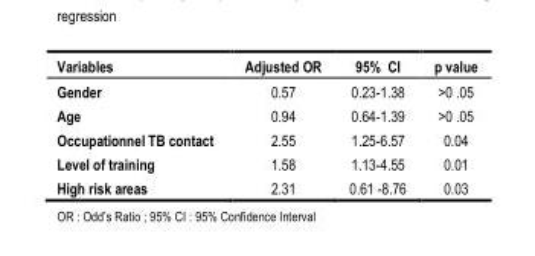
<table><thead><tr><td>Variables</td><td>Adjusted OR</td><td>95% CI</td><td>p value</td></tr></thead><tbody><tr><td>Gender</td><td>0.57</td><td>0.23-1.38</td><td>&gt;0 .05</td></tr><tr><td>Age</td><td>0.94</td><td>0.64-1.39</td><td>&gt;0 .05</td></tr><tr><td>Occupationnel TB contact</td><td>2.55</td><td>1.25-6.57</td><td>0.04</td></tr><tr><td>Level of training</td><td>1.58</td><td>1.13-4.55</td><td>0.01</td></tr><tr><td>High risk areas</td><td>2.31</td><td>0.61 -8.76</td><td>0.03</td></tr></tbody></table>